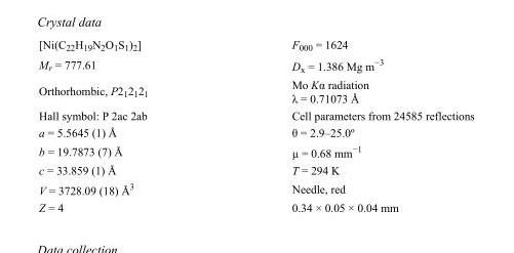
<table><tbody><tr><td>[Ni(C<sub>22</sub>H<sub>19</sub>N<sub>2</sub>O<sub>1</sub>S<sub>1</sub>)<sub>2</sub>]</td><td>F<sub>000</sub> = 1624</td></tr><tr><td>M<sub>r</sub> = 777.61</td><td>D<sub>x</sub> = 1.386 Mg m<sup>−3</sup></td></tr><tr><td>Orthorhombic, P2<sub>1</sub>2<sub>1</sub>2<sub>1</sub></td><td>Mo Kα radiation λ = 0.71073 Å</td></tr><tr><td>Hall symbol: P 2ac 2ab</td><td>Cell parameters from 24585 reflections</td></tr><tr><td>a = 5.5645 (1) Å</td><td>θ = 2.9–25.0º</td></tr><tr><td>b = 19.7873 (7) Å</td><td>µ = 0.68 mm<sup>−1</sup></td></tr><tr><td>c = 33.859 (1) Å</td><td>T = 294 K</td></tr><tr><td>V = 3728.09 (18) Å<sup>3</sup></td><td>Needle, red</td></tr><tr><td>Z = 4</td><td>0.34 × 0.05 × 0.04 mm</td></tr></tbody></table>